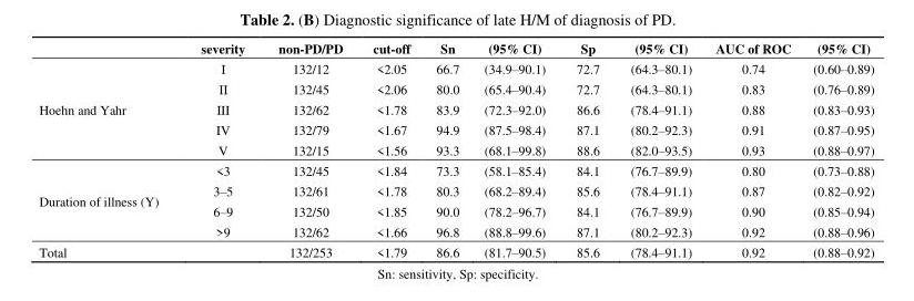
<table><thead><tr><td></td><td>severity</td><td>non-PD/PD</td><td>cut-off</td><td>Sn</td><td>(95% CI)</td><td>Sp</td><td>(95% CI)</td><td>AUC of ROC</td><td>(95% CI)</td></tr></thead><tbody><tr><td rowspan="5">Hoehn and Yahr</td><td>I</td><td>132/12</td><td>&lt;2.05</td><td>66.7</td><td>(34.9–90.1)</td><td>72.7</td><td>(64.3–80.1)</td><td>0.74</td><td>(0.60–0.89)</td></tr><tr><td>II</td><td>132/45</td><td>&lt;2.06</td><td>80.0</td><td>(65.4–90.4)</td><td>72.7</td><td>(64.3–80.1)</td><td>0.83</td><td>(0.76–0.89)</td></tr><tr><td>III</td><td>132/62</td><td>&lt;1.78</td><td>83.9</td><td>(72.3–92.0)</td><td>86.6</td><td>(78.4–91.1)</td><td>0.88</td><td>(0.83–0.93)</td></tr><tr><td>IV</td><td>132/79</td><td>&lt;1.67</td><td>94.9</td><td>(87.5–98.4)</td><td>87.1</td><td>(80.2–92.3)</td><td>0.91</td><td>(0.87–0.95)</td></tr><tr><td>V</td><td>132/15</td><td>&lt;1.56</td><td>93.3</td><td>(68.1–99.8)</td><td>88.6</td><td>(82.0–93.5)</td><td>0.93</td><td>(0.88–0.97)</td></tr><tr><td rowspan="4">Duration of illness (Y)</td><td>&lt;3</td><td>132/45</td><td>&lt;1.84</td><td>73.3</td><td>(58.1–85.4)</td><td>84.1</td><td>(76.7–89.9)</td><td>0.80</td><td>(0.73–0.88)</td></tr><tr><td>3–5</td><td>132/61</td><td>&lt;1.78</td><td>80.3</td><td>(68.2–89.4)</td><td>85.6</td><td>(78.4–91.1)</td><td>0.87</td><td>(0.82–0.92)</td></tr><tr><td>6–9</td><td>132/50</td><td>&lt;1.85</td><td>90.0</td><td>(78.2–96.7)</td><td>84.1</td><td>(76.7–89.9)</td><td>0.90</td><td>(0.85–0.94)</td></tr><tr><td>&gt;9</td><td>132/62</td><td>&lt;1.66</td><td>96.8</td><td>(88.8–99.6)</td><td>87.1</td><td>(80.2–92.3)</td><td>0.92</td><td>(0.88–0.96)</td></tr><tr><td>Total</td><td></td><td>132/253</td><td>&lt;1.79</td><td>86.6</td><td>(81.7–90.5)</td><td>85.6</td><td>(78.4–91.1)</td><td>0.92</td><td>(0.88–0.92)</td></tr></tbody></table>